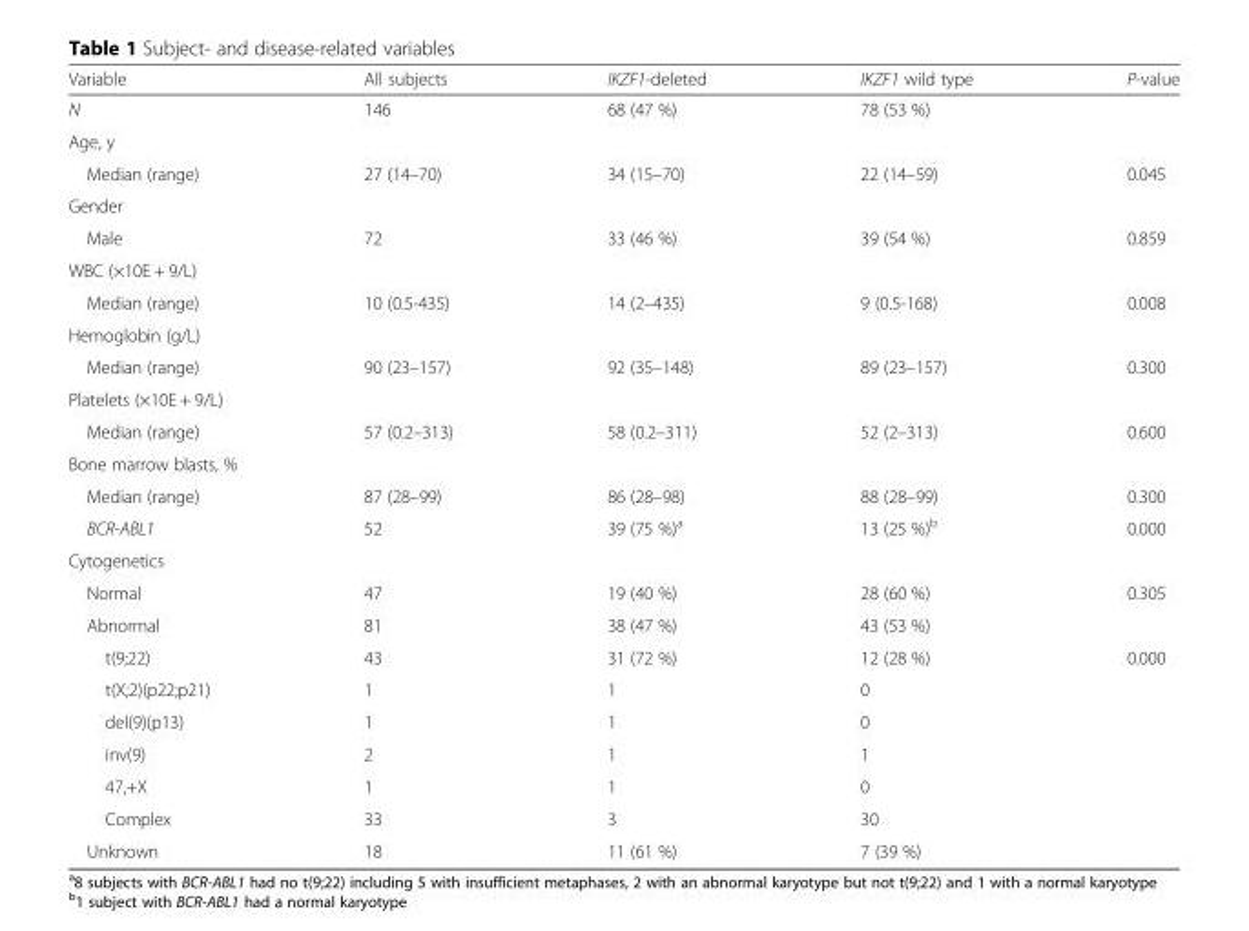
<table><thead><tr><td>Variable</td><td>All subjects</td><td>IKZF1-deleted</td><td>IKZF1 wild type</td><td>P-value</td></tr></thead><tbody><tr><td>N</td><td>146</td><td>68 (47 %)</td><td>78 (53 %)</td><td></td></tr><tr><td colspan="5">Age, y</td></tr><tr><td>Median (range)</td><td>27 (14–70)</td><td>34 (15–70)</td><td>22 (14–59)</td><td>0.045</td></tr><tr><td colspan="5">Gender</td></tr><tr><td>Male</td><td>72</td><td>33 (46 %)</td><td>39 (54 %)</td><td>0.859</td></tr><tr><td colspan="5">WBC (×10E + 9/L)</td></tr><tr><td>Median (range)</td><td>10 (0.5-435)</td><td>14 (2–435)</td><td>9 (0.5-168)</td><td>0.008</td></tr><tr><td colspan="5">Hemoglobin (g/L)</td></tr><tr><td>Median (range)</td><td>90 (23–157)</td><td>92 (35–148)</td><td>89 (23–157)</td><td>0.300</td></tr><tr><td colspan="5">Platelets (×10E + 9/L)</td></tr><tr><td>Median (range)</td><td>57 (0.2–313)</td><td>58 (0.2–311)</td><td>52 (2–313)</td><td>0.600</td></tr><tr><td colspan="5">Bone marrow blasts, %</td></tr><tr><td>Median (range)</td><td>87 (28–99)</td><td>86 (28–98)</td><td>88 (28–99)</td><td>0.300</td></tr><tr><td>BCR-ABL1</td><td>52</td><td>39 (75 %)<sup>a</sup></td><td>13 (25 %)<sup>b</sup></td><td>0.000</td></tr><tr><td colspan="5">Cytogenetics</td></tr><tr><td>Normal</td><td>47</td><td>19 (40 %)</td><td>28 (60 %)</td><td>0.305</td></tr><tr><td>Abnormal</td><td>81</td><td>38 (47 %)</td><td>43 (53 %)</td><td></td></tr><tr><td>t(9;22)</td><td>43</td><td>31 (72 %)</td><td>12 (28 %)</td><td>0.000</td></tr><tr><td>t(X;2)(p22;p21)</td><td>1</td><td>1</td><td>0</td><td></td></tr><tr><td>del(9)(p13)</td><td>1</td><td>1</td><td>0</td><td></td></tr><tr><td>inv(9)</td><td>2</td><td>1</td><td>1</td><td></td></tr><tr><td>47,+X</td><td>1</td><td>1</td><td>0</td><td></td></tr><tr><td>Complex</td><td>33</td><td>3</td><td>30</td><td></td></tr><tr><td>Unknown</td><td>18</td><td>11 (61 %)</td><td>7 (39 %)</td><td></td></tr></tbody></table>